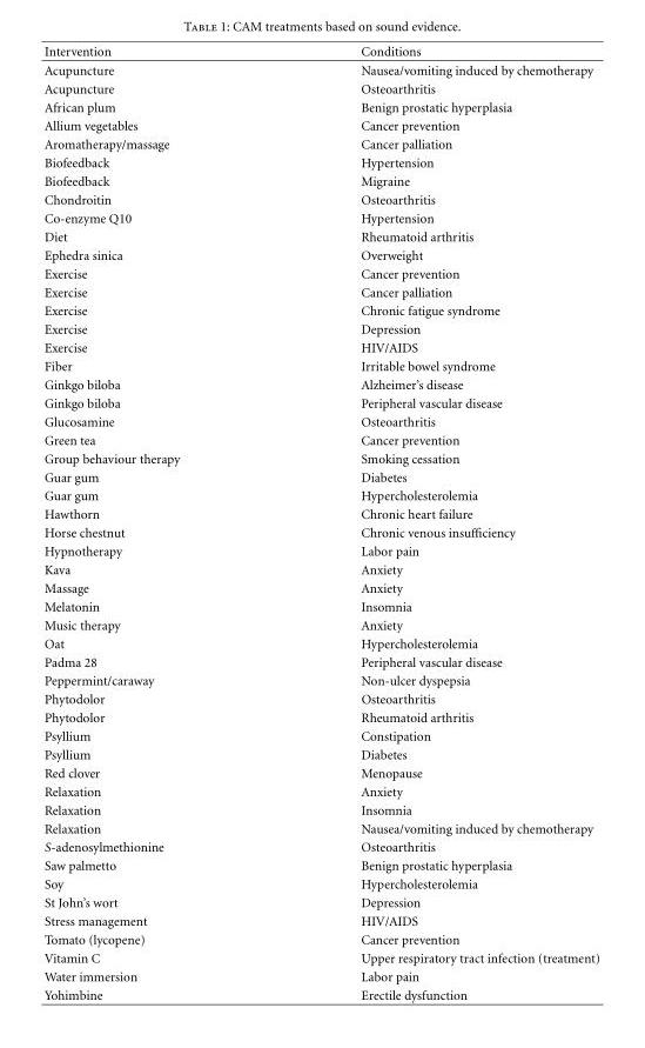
<table><thead><tr><td>Intervention</td><td>Conditions</td></tr></thead><tbody><tr><td>Acupuncture</td><td>Nausea/vomiting induced by chemotherapy</td></tr><tr><td>Acupuncture</td><td>Osteoarthritis</td></tr><tr><td>African plum</td><td>Benign prostatic hyperplasia</td></tr><tr><td>Allium vegetables</td><td>Cancer prevention</td></tr><tr><td>Aromatherapy/massage</td><td>Cancer palliation</td></tr><tr><td>Biofeedback</td><td>Hypertension</td></tr><tr><td>Biofeedback</td><td>Migraine</td></tr><tr><td>Chondroitin</td><td>Osteoarthritis</td></tr><tr><td>Co-enzyme Q10</td><td>Hypertension</td></tr><tr><td>Diet</td><td>Rheumatoid arthritis</td></tr><tr><td>Ephedra sinica</td><td>Overweight</td></tr><tr><td>Exercise</td><td>Cancer prevention</td></tr><tr><td>Exercise</td><td>Cancer palliation</td></tr><tr><td>Exercise</td><td>Chronic fatigue syndrome</td></tr><tr><td>Exercise</td><td>Depression</td></tr><tr><td>Exercise</td><td>HIV/AIDS</td></tr><tr><td>Fiber</td><td>Irritable bowel syndrome</td></tr><tr><td>Ginkgo biloba</td><td>Alzheimer’s disease</td></tr><tr><td>Ginkgo biloba</td><td>Peripheral vascular disease</td></tr><tr><td>Glucosamine</td><td>Osteoarthritis</td></tr><tr><td>Green tea</td><td>Cancer prevention</td></tr><tr><td>Group behaviour therapy</td><td>Smoking cessation</td></tr><tr><td>Guar gum</td><td>Diabetes</td></tr><tr><td>Guar gum</td><td>Hypercholesterolemia</td></tr><tr><td>Hawthorn</td><td>Chronic heart failure</td></tr><tr><td>Horse chestnut</td><td>Chronic venous insufficiency</td></tr><tr><td>Hypnotherapy</td><td>Labor pain</td></tr><tr><td>Kava</td><td>Anxiety</td></tr><tr><td>Massage</td><td>Anxiety</td></tr><tr><td>Melatonin</td><td>Insomnia</td></tr><tr><td>Music therapy</td><td>Anxiety</td></tr><tr><td>Oat</td><td>Hypercholesterolemia</td></tr><tr><td>Padma 28</td><td>Peripheral vascular disease</td></tr><tr><td>Peppermint/caraway</td><td>Non-ulcer dyspepsia</td></tr><tr><td>Phytodolor</td><td>Osteoarthritis</td></tr><tr><td>Phytodolor</td><td>Rheumatoid arthritis</td></tr><tr><td>Psyllium</td><td>Constipation</td></tr><tr><td>Psyllium</td><td>Diabetes</td></tr><tr><td>Red clover</td><td>Menopause</td></tr><tr><td>Relaxation</td><td>Anxiety</td></tr><tr><td>Relaxation</td><td>Insomnia</td></tr><tr><td>Relaxation</td><td>Nausea/vomiting induced by chemotherapy</td></tr><tr><td>S-adenosylmethionine</td><td>Osteoarthritis</td></tr><tr><td>Saw palmetto</td><td>Benign prostatic hyperplasia</td></tr><tr><td>Soy</td><td>Hypercholesterolemia</td></tr><tr><td>St John’s wort</td><td>Depression</td></tr><tr><td>Stress management</td><td>HIV/AIDS</td></tr><tr><td>Tomato (lycopene)</td><td>Cancer prevention</td></tr><tr><td>Vitamin C</td><td>Upper respiratory tract infection (treatment)</td></tr><tr><td>Water immersion</td><td>Labor pain</td></tr><tr><td>Yohimbine</td><td>Erectile dysfunction</td></tr></tbody></table>